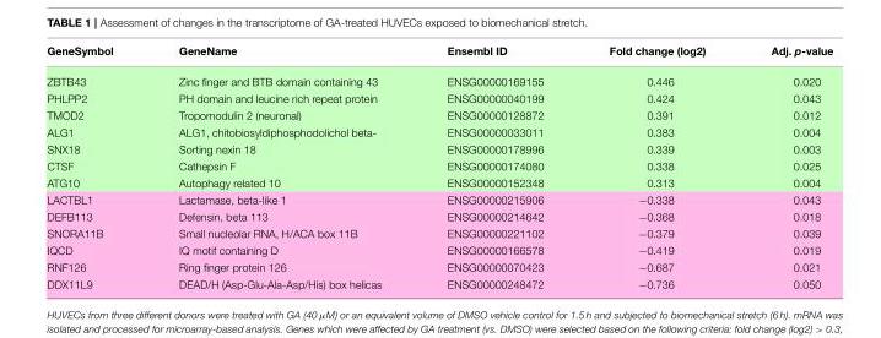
<table><thead><tr><td>GeneSymbol</td><td>GeneName</td><td>Ensembl ID</td><td>Fold change (log2)</td><td>Adj. p-value</td></tr></thead><tbody><tr><td>ZBTB43</td><td>Zinc finger and BTB domain containing 43</td><td>ENSG00000169155</td><td>0.446</td><td>0.020</td></tr><tr><td>PHLPP2</td><td>PH domain and leucine rich repeat protein</td><td>ENSG00000040199</td><td>0.424</td><td>0.043</td></tr><tr><td>TMOD2</td><td>Tropomodulin 2 (neuronal)</td><td>ENSG00000128872</td><td>0.391</td><td>0.012</td></tr><tr><td>ALG1</td><td>ALG1, chitobiosyldiphosphodolichol beta-</td><td>ENSG00000033011</td><td>0.383</td><td>0.004</td></tr><tr><td>SNX18</td><td>Sorting nexin 18</td><td>ENSG00000178996</td><td>0.339</td><td>0.003</td></tr><tr><td>CTSF</td><td>Cathepsin F</td><td>ENSG00000174080</td><td>0.338</td><td>0.025</td></tr><tr><td>ATG10</td><td>Autophagy related 10</td><td>ENSG00000152348</td><td>0.313</td><td>0.004</td></tr><tr><td>LACTBL1</td><td>Lactamase, beta-like 1</td><td>ENSG00000215906</td><td>−0.338</td><td>0.043</td></tr><tr><td>DEFB113</td><td>Defensin, beta 113</td><td>ENSG00000214642</td><td>−0.368</td><td>0.018</td></tr><tr><td>SNORA11B</td><td>Small nucleolar RNA, H/ACA box 11B</td><td>ENSG00000221102</td><td>−0.379</td><td>0.039</td></tr><tr><td>IQCD</td><td>IQ motif containing D</td><td>ENSG00000166578</td><td>−0.419</td><td>0.019</td></tr><tr><td>RNF126</td><td>Ring finger protein 126</td><td>ENSG00000070423</td><td>−0.687</td><td>0.021</td></tr><tr><td>DDX11L9</td><td>DEAD/H (Asp-Glu-Ala-Asp/His) box helicas</td><td>ENSG00000248472</td><td>−0.736</td><td>0.050</td></tr></tbody></table>